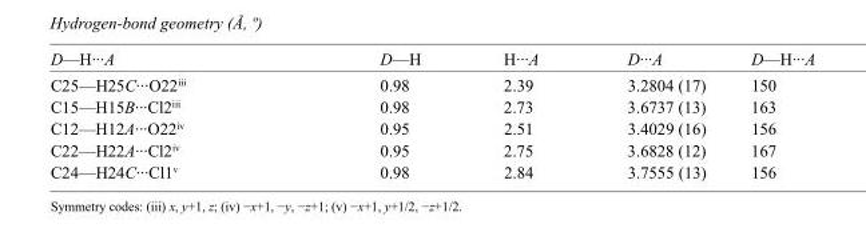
<table><tbody><tr><td>D—H···A</td><td>D—H</td><td>H···A</td><td>D···A</td><td>D—H···A</td></tr><tr><td>C25—H25C···O22<sup>iii</sup></td><td>0.98</td><td>2.39</td><td>3.2804 (17)</td><td>150</td></tr><tr><td>C15—H15B···Cl2<sup>iii</sup></td><td>0.98</td><td>2.73</td><td>3.6737 (13)</td><td>163</td></tr><tr><td>C12—H12A···O22<sup>iv</sup></td><td>0.95</td><td>2.51</td><td>3.4029 (16)</td><td>156</td></tr><tr><td>C22—H22A···Cl2<sup>iv</sup></td><td>0.95</td><td>2.75</td><td>3.6828 (12)</td><td>167</td></tr><tr><td>C24—H24C···Cl1<sup>v</sup></td><td>0.98</td><td>2.84</td><td>3.7555 (13)</td><td>156</td></tr></tbody></table>